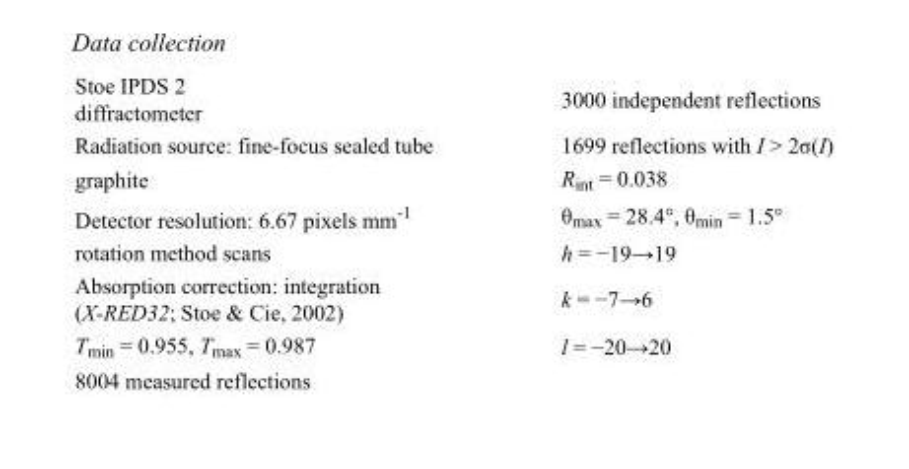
<table><tbody><tr><td>Stoe IPDS 2 diffractometer</td><td>3000 independent reflections</td></tr><tr><td>Radiation source: fine-focus sealed tube</td><td>1699 reflections with I &gt; 2σ(I)</td></tr><tr><td>graphite</td><td>R<sub>int</sub> = 0.038</td></tr><tr><td>Detector resolution: 6.67 pixels mm<sup>-1</sup></td><td>θ<sub>max</sub> = 28.4°, θ<sub>min</sub> = 1.5°</td></tr><tr><td>rotation method scans</td><td>h = −19→19</td></tr><tr><td>Absorption correction: integration (X-RED32; Stoe &amp; Cie, 2002)</td><td>k = −7→6</td></tr><tr><td>T<sub>min</sub> = 0.955, T<sub>max</sub> = 0.987</td><td>l = −20→20</td></tr><tr><td>8004 measured reflections</td><td></td></tr></tbody></table>